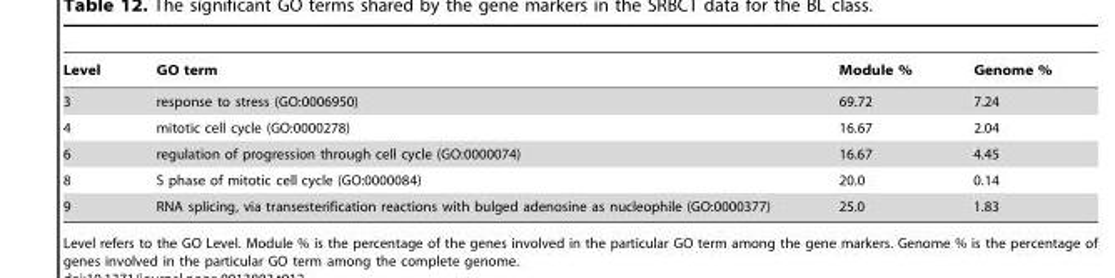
<table><thead><tr><td>Level</td><td>GO term</td><td>Module %</td><td>Genome %</td></tr></thead><tbody><tr><td>3</td><td>response to stress (GO:0006950)</td><td>69.72</td><td>7.24</td></tr><tr><td>4</td><td>mitotic cell cycle (GO:0000278)</td><td>16.67</td><td>2.04</td></tr><tr><td>6</td><td>regulation of progression through cell cycle (GO:0000074)</td><td>16.67</td><td>4.45</td></tr><tr><td>8</td><td>S phase of mitotic cell cycle (GO:0000084)</td><td>20.0</td><td>0.14</td></tr><tr><td>9</td><td>RNA splicing, via transesterification reactions with bulged adenosine as nucleophile (GO:0000377)</td><td>25.0</td><td>1.83</td></tr></tbody></table>